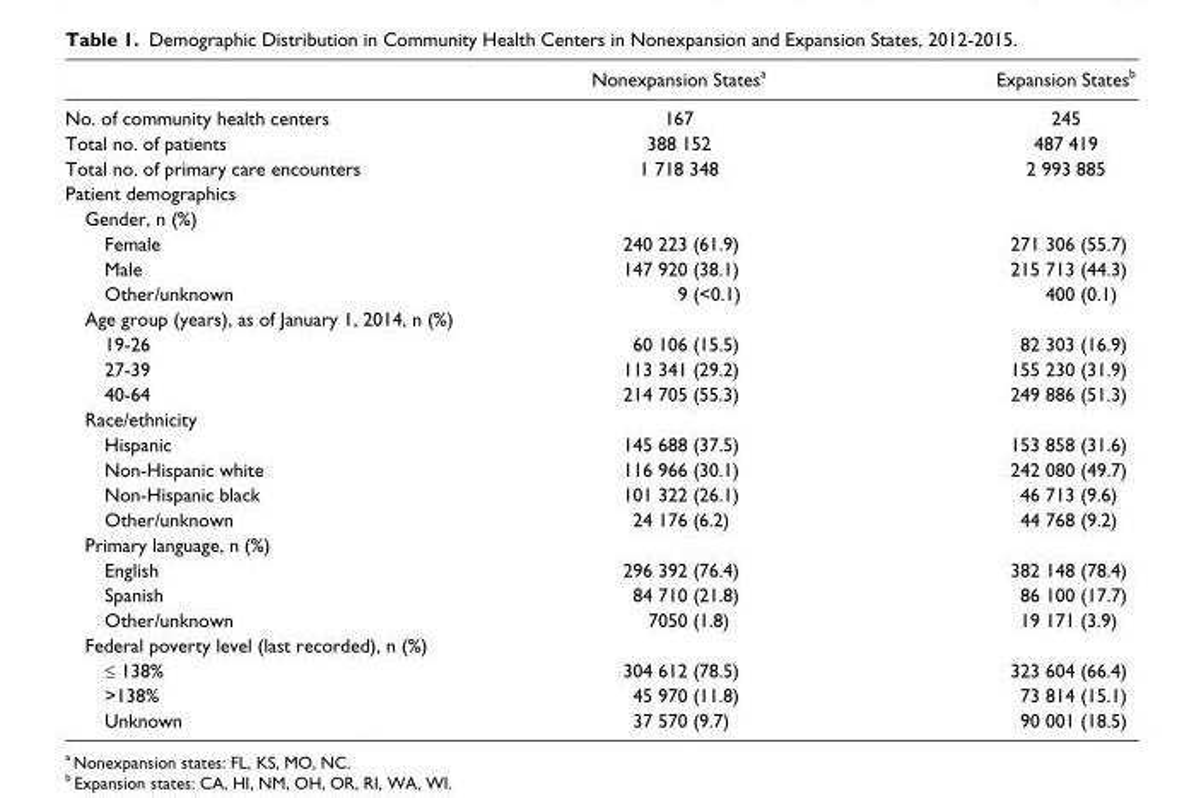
<table><thead><tr><td></td><td>Nonexpansion States<sup>a</sup></td><td>Expansion States<sup>b</sup></td></tr></thead><tbody><tr><td>No. of community health centers</td><td>167</td><td>245</td></tr><tr><td>Total no. of patients</td><td>388 152</td><td>487 419</td></tr><tr><td>Total no. of primary care encounters</td><td>1 718 348</td><td>2 993 885</td></tr><tr><td colspan="3">Patient demographics</td></tr><tr><td colspan="3">Gender, n (%)</td></tr><tr><td>Female</td><td>240 223 (61.9)</td><td>271 306 (55.7)</td></tr><tr><td>Male</td><td>147 920 (38.1)</td><td>215 713 (44.3)</td></tr><tr><td>Other/unknown</td><td>9 (&lt;0.1)</td><td>400 (0.1)</td></tr><tr><td colspan="3">Age group (years), as of January 1, 2014, n (%)</td></tr><tr><td>19-26</td><td>60 106 (15.5)</td><td>82 303 (16.9)</td></tr><tr><td>27-39</td><td>113 341 (29.2)</td><td>155 230 (31.9)</td></tr><tr><td>40-64</td><td>214 705 (55.3)</td><td>249 886 (51.3)</td></tr><tr><td colspan="3">Race/ethnicity</td></tr><tr><td>Hispanic</td><td>145 688 (37.5)</td><td>153 858 (31.6)</td></tr><tr><td>Non-Hispanic white</td><td>116 966 (30.1)</td><td>242 080 (49.7)</td></tr><tr><td>Non-Hispanic black</td><td>101 322 (26.1)</td><td>46 713 (9.6)</td></tr><tr><td>Other/unknown</td><td>24 176 (6.2)</td><td>44 768 (9.2)</td></tr><tr><td colspan="3">Primary language, n (%)</td></tr><tr><td>English</td><td>296 392 (76.4)</td><td>382 148 (78.4)</td></tr><tr><td>Spanish</td><td>84 710 (21.8)</td><td>86 100 (17.7)</td></tr><tr><td>Other/unknown</td><td>7050 (1.8)</td><td>19 171 (3.9)</td></tr><tr><td colspan="3">Federal poverty level (last recorded), n (%)</td></tr><tr><td>≤ 138%</td><td>304 612 (78.5)</td><td>323 604 (66.4)</td></tr><tr><td>&gt;138%</td><td>45 970 (11.8)</td><td>73 814 (15.1)</td></tr><tr><td>Unknown</td><td>37 570 (9.7)</td><td>90 001 (18.5)</td></tr></tbody></table>